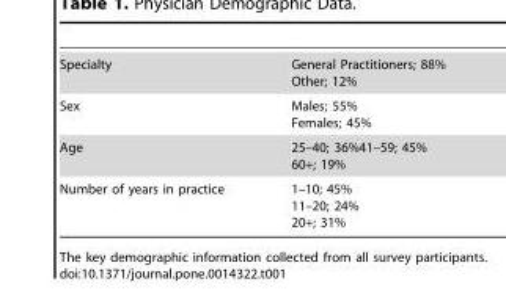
<table><tbody><tr><td>Specialty</td><td>General Practitioners; 88% Other; 12%</td></tr><tr><td>Sex</td><td>Males; 55% Females; 45%</td></tr><tr><td>Age</td><td>25–40; 36%41–59; 45% 60+; 19%</td></tr><tr><td>Number of years in practice</td><td>1–10; 45% 11–20; 24% 20+; 31%</td></tr></tbody></table>